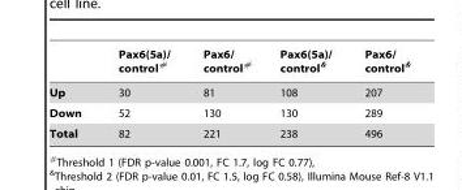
<table><thead><tr><td></td><td>Pax6(5a)/ control#</td><td>Pax6/ control#</td><td>Pax6(5a)/ control&amp;</td><td>Pax6/ control&amp;</td></tr></thead><tbody><tr><td>Up</td><td>30</td><td>81</td><td>108</td><td>207</td></tr><tr><td>Down</td><td>52</td><td>130</td><td>130</td><td>289</td></tr><tr><td>Total</td><td>82</td><td>221</td><td>238</td><td>496</td></tr></tbody></table>